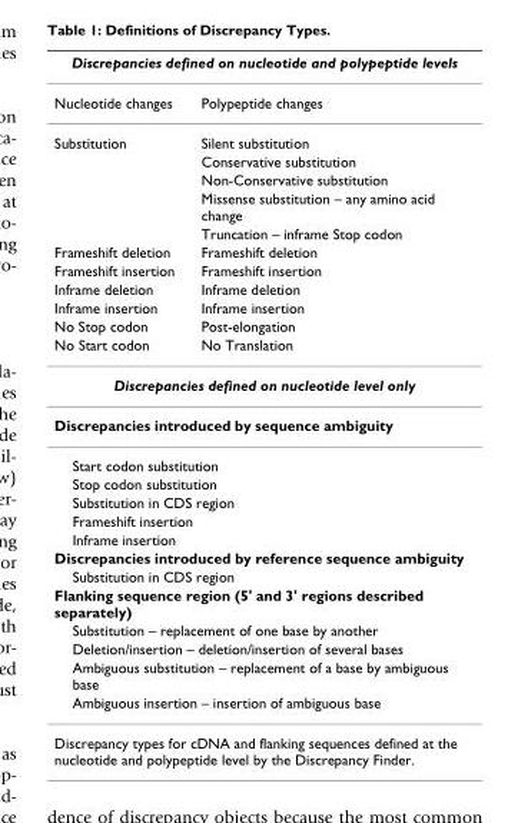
<table><thead><tr><td colspan="2">Discrepancies defined on nucleotide and polypeptide levels</td></tr><tr><td>Nucleotide changes</td><td>Polypeptide changes</td></tr></thead><tbody><tr><td rowspan="5">Substitution</td><td>Silent substitution</td></tr><tr><td>Conservative substitution</td></tr><tr><td>Non-Conservative substitution</td></tr><tr><td>Missense substitution – any amino acid change</td></tr><tr><td>Truncation – inframe Stop codon</td></tr><tr><td>Frameshift deletion</td><td>Frameshift deletion</td></tr><tr><td>Frameshift insertion</td><td>Frameshift insertion</td></tr><tr><td>Inframe deletion</td><td>Inframe deletion</td></tr><tr><td>Inframe insertion</td><td>Inframe insertion</td></tr><tr><td>No Stop codon</td><td>Post-elongation</td></tr><tr><td>No Start codon</td><td>No Translation</td></tr><tr><td colspan="2">Discrepancies defined on nucleotide level only</td></tr><tr><td colspan="2">Discrepancies introduced by sequence ambiguity</td></tr><tr><td colspan="2">Start codon substitution</td></tr><tr><td colspan="2">Stop codon substitution</td></tr><tr><td colspan="2">Substitution in CDS region</td></tr><tr><td colspan="2">Frameshift insertion</td></tr><tr><td colspan="2">Inframe insertion</td></tr><tr><td colspan="2">Discrepancies introduced by reference sequence ambiguity</td></tr><tr><td colspan="2">Substitution in CDS region</td></tr><tr><td colspan="2">Flanking sequence region (5&#x27; and 3&#x27; regions described separately)</td></tr><tr><td colspan="2">Substitution – replacement of one base by another</td></tr><tr><td colspan="2">Deletion/insertion – deletion/insertion of several bases</td></tr><tr><td colspan="2">Ambiguous substitution – replacement of a base by ambiguous base</td></tr><tr><td colspan="2">Ambiguous insertion – insertion of ambiguous base</td></tr><tr><td colspan="2">Discrepancy types for cDNA and flanking sequences defined at the nucleotide and polypeptide level by the Discrepancy Finder.</td></tr></tbody></table>